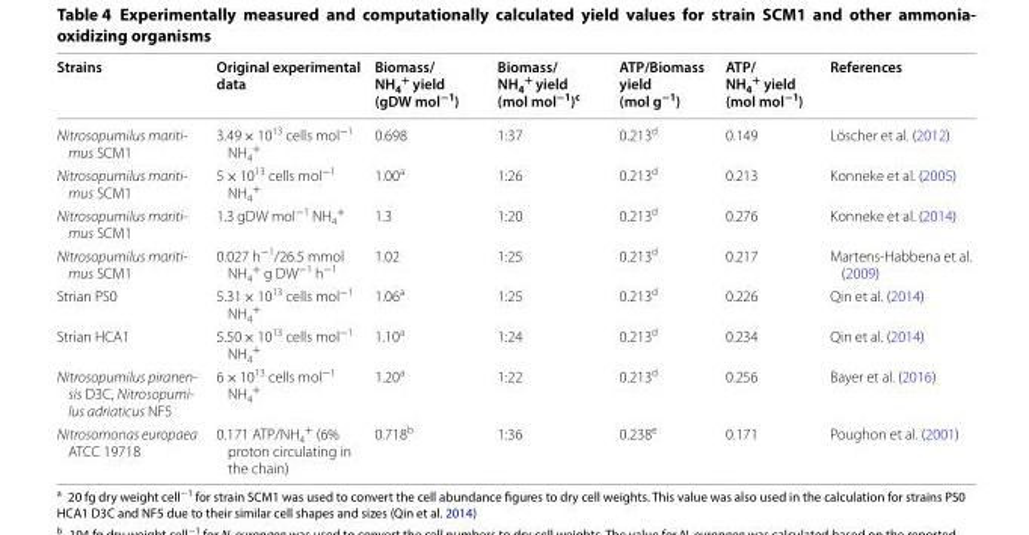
<table><thead><tr><td>Strains</td><td>Original experimental data</td><td>Biomass/ NH<sub>4</sub> <sup>+</sup> yield (gDW mol<sup>−1</sup>)</td><td>Biomass/ NH<sub>4</sub> <sup>+</sup> yield (mol mol<sup>−1</sup>)<sup>c</sup></td><td>ATP/Biomass yield (mol g<sup>−1</sup>)</td><td>ATP/ NH<sub>4</sub> <sup>+</sup> yield (mol mol<sup>−1</sup>)</td><td>References</td></tr></thead><tbody><tr><td>Nitrosopumilus mariti- mus SCM1</td><td>3.49 × 10<sup>13</sup> cells mol<sup>−1</sup> NH<sub>4</sub> <sup>+</sup></td><td>0.698</td><td>1:37</td><td>0.213<sup>d</sup></td><td>0.149</td><td>Löscher et al. (2012)</td></tr><tr><td>Nitrosopumilus mariti- mus SCM1</td><td>5 × 10<sup>13</sup> cells mol<sup>−1</sup> NH<sub>4</sub> <sup>+</sup></td><td>1.00<sup>a</sup></td><td>1:26</td><td>0.213<sup>d</sup></td><td>0.213</td><td>Konneke et al. (2005)</td></tr><tr><td>Nitrosopumilus mariti- mus SCM1</td><td>1.3 gDW mol<sup>−1</sup> NH<sub>4</sub> <sup>+</sup></td><td>1.3</td><td>1:20</td><td>0.213<sup>d</sup></td><td>0.276</td><td>Konneke et al. (2014)</td></tr><tr><td>Nitrosopumilus mariti- mus SCM1</td><td>0.027 h<sup>−1</sup>/26.5 mmol NH<sub>4</sub> <sup>+</sup> g DW<sup>−1</sup> h<sup>−1</sup></td><td>1.02</td><td>1:25</td><td>0.213<sup>d</sup></td><td>0.217</td><td>Martens-Habbena et al. (2009)</td></tr><tr><td>Strian PS0</td><td>5.31 × 10<sup>13</sup> cells mol<sup>−1</sup> NH<sub>4</sub> <sup>+</sup></td><td>1.06<sup>a</sup></td><td>1:25</td><td>0.213<sup>d</sup></td><td>0.226</td><td>Qin et al. (2014)</td></tr><tr><td>Strian HCA1</td><td>5.50 × 10<sup>13</sup> cells mol<sup>−1</sup> NH<sub>4</sub> <sup>+</sup></td><td>1.10<sup>a</sup></td><td>1:24</td><td>0.213<sup>d</sup></td><td>0.234</td><td>Qin et al. (2014)</td></tr><tr><td>Nitrosopumilus piranen- sis D3C, Nitrosopumi- lus adriaticus NF5</td><td>6 × 10<sup>13</sup> cells mol<sup>−1</sup> NH<sub>4</sub> <sup>+</sup></td><td>1.20<sup>a</sup></td><td>1:22</td><td>0.213<sup>d</sup></td><td>0.256</td><td>Bayer et al. (2016)</td></tr><tr><td>Nitrosomonas europaea ATCC 19718</td><td>0.171 ATP/NH<sub>4</sub> <sup>+</sup> (6% proton circulating in the chain)</td><td>0.718<sup>b</sup></td><td>1:36</td><td>0.238<sup>e</sup></td><td>0.171</td><td>Poughon et al. (2001)</td></tr></tbody></table>